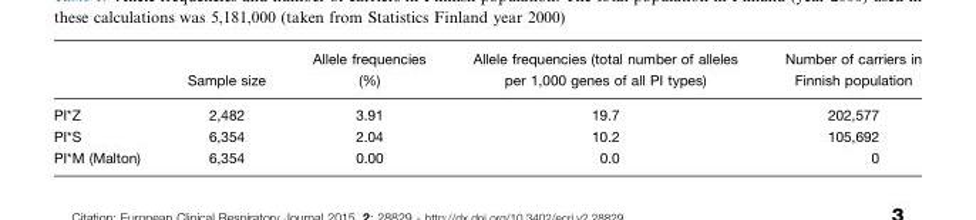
<table><thead><tr><td></td><td>Sample size</td><td>Allele frequencies (%)</td><td>Allele frequencies (total number of alleles per 1,000 genes of all PI types)</td><td>Number of carriers in Finnish population</td></tr></thead><tbody><tr><td>PI*Z</td><td>2,482</td><td>3.91</td><td>19.7</td><td>202,577</td></tr><tr><td>PI*S</td><td>6,354</td><td>2.04</td><td>10.2</td><td>105,692</td></tr><tr><td>PI*M (Malton)</td><td>6,354</td><td>0.00</td><td>0.0</td><td>0</td></tr></tbody></table>